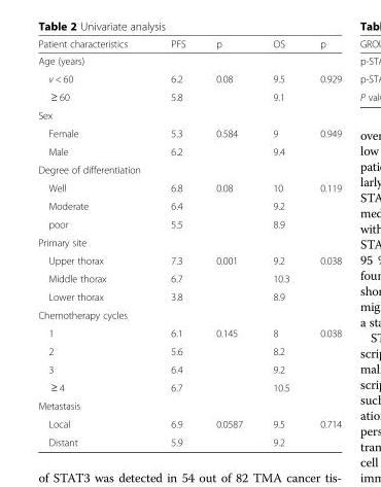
<table><thead><tr><td>Patient characteristics</td><td>PFS</td><td>p</td><td>OS</td><td>p</td></tr></thead><tbody><tr><td colspan="5">Age (years)</td></tr><tr><td>v &lt; 60</td><td>6.2</td><td rowspan="2">0.08</td><td>9.5</td><td rowspan="2">0.929</td></tr><tr><td>≥ 60</td><td>5.8</td><td>9.1</td></tr><tr><td colspan="5">Sex</td></tr><tr><td>Female</td><td>5.3</td><td rowspan="2">0.584</td><td>9</td><td rowspan="2">0.949</td></tr><tr><td>Male</td><td>6.2</td><td>9.4</td></tr><tr><td colspan="5">Degree of differentiation</td></tr><tr><td>Well</td><td>6.8</td><td rowspan="3">0.08</td><td>10</td><td rowspan="3">0.119</td></tr><tr><td>Moderate</td><td>6.4</td><td>9.2</td></tr><tr><td>poor</td><td>5.5</td><td>8.9</td></tr><tr><td colspan="5">Primary site</td></tr><tr><td>Upper thorax</td><td>7.3</td><td rowspan="3">0.001</td><td>9.2</td><td rowspan="3">0.038</td></tr><tr><td>Middle thorax</td><td>6.7</td><td>10.3</td></tr><tr><td>Lower thorax</td><td>3.8</td><td>8.9</td></tr><tr><td colspan="5">Chemotherapy cycles</td></tr><tr><td>1</td><td>6.1</td><td rowspan="4">0.145</td><td>8</td><td rowspan="4">0.038</td></tr><tr><td>2</td><td>5.6</td><td>8.2</td></tr><tr><td>3</td><td>6.4</td><td>9.2</td></tr><tr><td>≥ 4</td><td>6.7</td><td>10.5</td></tr><tr><td colspan="5">Metastasis</td></tr><tr><td>Local</td><td>6.9</td><td rowspan="2">0.0587</td><td>9.5</td><td rowspan="2">0.714</td></tr><tr><td>Distant</td><td>5.9</td><td>9.2</td></tr></tbody></table>